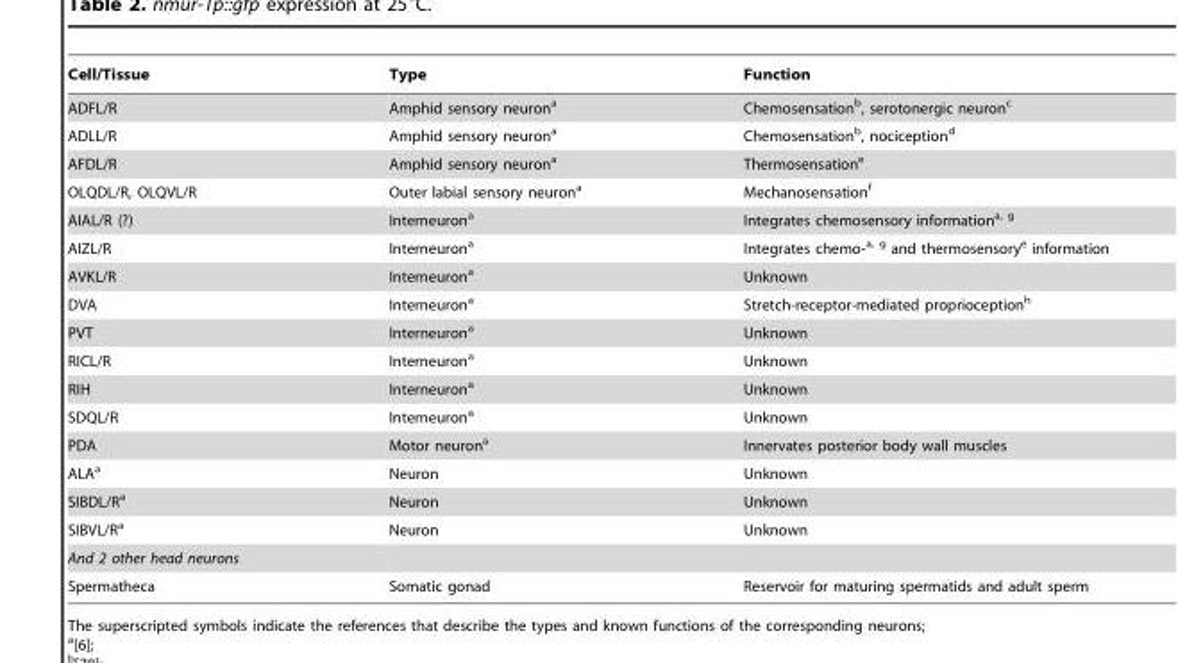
<table><thead><tr><td>Cell/Tissue</td><td>Type</td><td>Function</td></tr></thead><tbody><tr><td>ADFL/R</td><td>Amphid sensory neuron<sup>a</sup></td><td>Chemosensation<sup>b</sup>, serotonergic neuron<sup>c</sup></td></tr><tr><td>ADLL/R</td><td>Amphid sensory neuron<sup>a</sup></td><td>Chemosensation<sup>b</sup>, nociception<sup>d</sup></td></tr><tr><td>AFDL/R</td><td>Amphid sensory neuron<sup>a</sup></td><td>Thermosensation<sup>e</sup></td></tr><tr><td>OLQDL/R, OLQVL/R</td><td>Outer labial sensory neuron<sup>a</sup></td><td>Mechanosensation<sup>f</sup></td></tr><tr><td>AIAL/R (?)</td><td>Interneuron<sup>a</sup></td><td>Integrates chemosensory information<sup>a,</sup> g</td></tr><tr><td>AIZL/R</td><td>Interneuron<sup>a</sup></td><td>Integrates chemo-a<sup>,</sup> g and thermosensory<sup>e</sup> information</td></tr><tr><td>AVKL/R</td><td>Interneuron<sup>a</sup></td><td>Unknown</td></tr><tr><td>DVA</td><td>Interneuron<sup>a</sup></td><td>Stretch-receptor-mediated proprioception<sup>h</sup></td></tr><tr><td>PVT</td><td>Interneuron<sup>a</sup></td><td>Unknown</td></tr><tr><td>RICL/R</td><td>Interneuron<sup>a</sup></td><td>Unknown</td></tr><tr><td>RIH</td><td>Interneuron<sup>a</sup></td><td>Unknown</td></tr><tr><td>SDQL/R</td><td>Interneuron<sup>a</sup></td><td>Unknown</td></tr><tr><td>PDA</td><td>Motor neuron<sup>a</sup></td><td>Innervates posterior body wall muscles</td></tr><tr><td>ALA<sup>a</sup></td><td>Neuron</td><td>Unknown</td></tr><tr><td>SIBDL/R<sup>a</sup></td><td>Neuron</td><td>Unknown</td></tr><tr><td>SIBVL/R<sup>a</sup></td><td>Neuron</td><td>Unknown</td></tr><tr><td colspan="3">And 2 other head neurons</td></tr><tr><td>Spermatheca</td><td>Somatic gonad</td><td>Reservoir for maturing spermatids and adult sperm</td></tr></tbody></table>